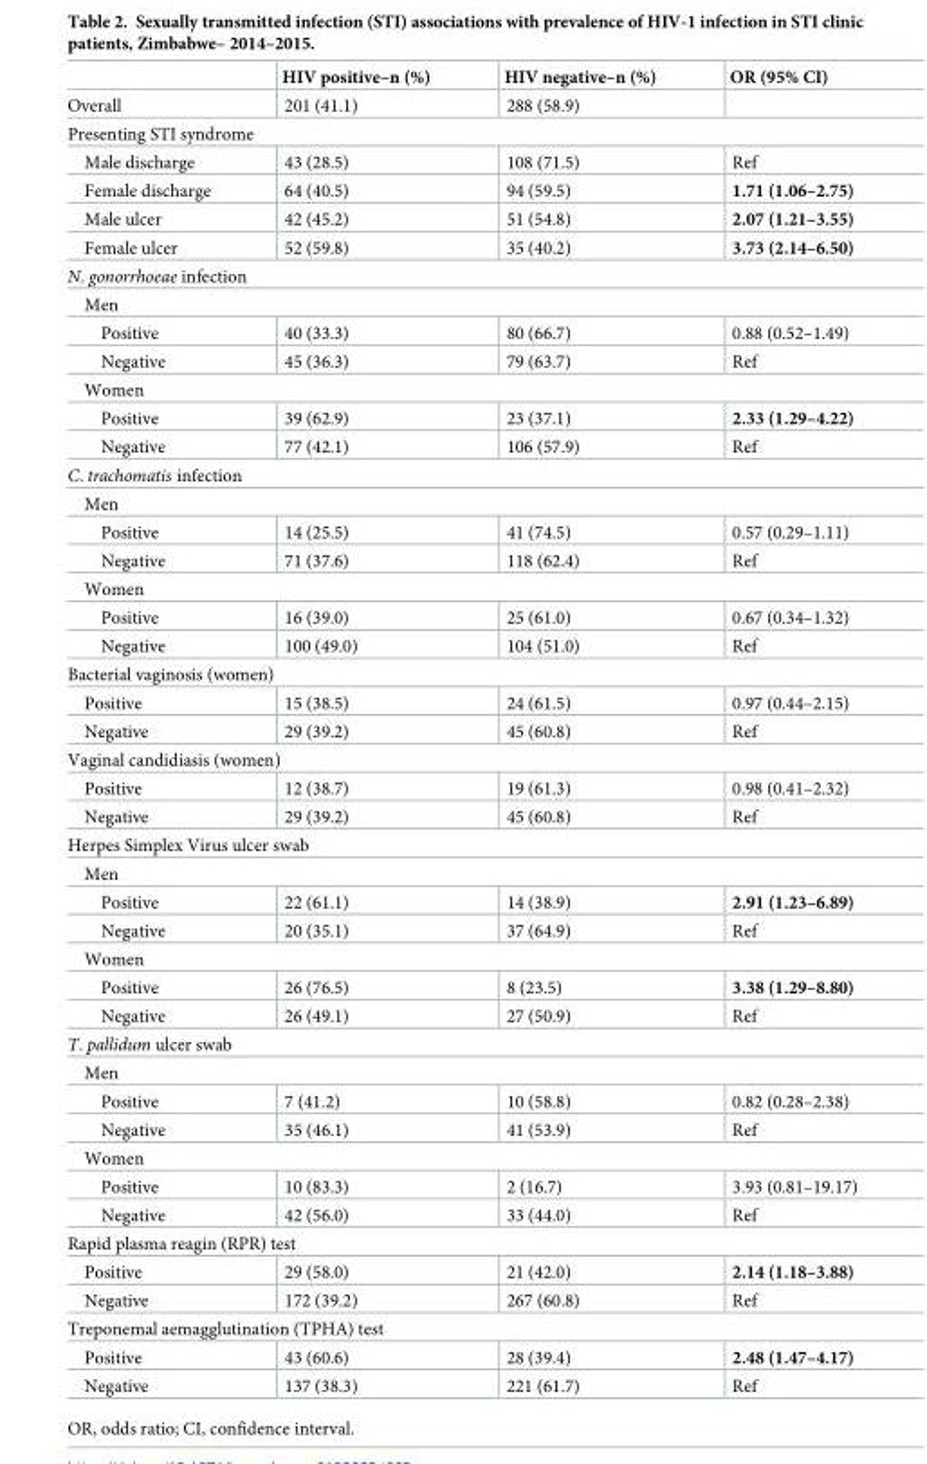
<table><thead><tr><td></td><td>HIV positive–n (%)</td><td>HIV negative–n (%)</td><td>OR (95% CI)</td></tr></thead><tbody><tr><td>Overall</td><td>201 (41.1)</td><td>288 (58.9)</td><td></td></tr><tr><td colspan="4">Presenting STI syndrome</td></tr><tr><td>Male discharge</td><td>43 (28.5)</td><td>108 (71.5)</td><td>Ref</td></tr><tr><td>Female discharge</td><td>64 (40.5)</td><td>94 (59.5)</td><td>1.71 (1.06–2.75)</td></tr><tr><td>Male ulcer</td><td>42 (45.2)</td><td>51 (54.8)</td><td>2.07 (1.21–3.55)</td></tr><tr><td>Female ulcer</td><td>52 (59.8)</td><td>35 (40.2)</td><td>3.73 (2.14–6.50)</td></tr><tr><td colspan="4">N. gonorrhoeae infection</td></tr><tr><td colspan="4">Men</td></tr><tr><td>Positive</td><td>40 (33.3)</td><td>80 (66.7)</td><td>0.88 (0.52–1.49)</td></tr><tr><td>Negative</td><td>45 (36.3)</td><td>79 (63.7)</td><td>Ref</td></tr><tr><td colspan="4">Women</td></tr><tr><td>Positive</td><td>39 (62.9)</td><td>23 (37.1)</td><td>2.33 (1.29–4.22)</td></tr><tr><td>Negative</td><td>77 (42.1)</td><td>106 (57.9)</td><td>Ref</td></tr><tr><td colspan="4">C. trachomatis infection</td></tr><tr><td colspan="4">Men</td></tr><tr><td>Positive</td><td>14 (25.5)</td><td>41 (74.5)</td><td>0.57 (0.29–1.11)</td></tr><tr><td>Negative</td><td>71 (37.6)</td><td>118 (62.4)</td><td>Ref</td></tr><tr><td colspan="4">Women</td></tr><tr><td>Positive</td><td>16 (39.0)</td><td>25 (61.0)</td><td>0.67 (0.34–1.32)</td></tr><tr><td>Negative</td><td>100 (49.0)</td><td>104 (51.0)</td><td>Ref</td></tr><tr><td colspan="4">Bacterial vaginosis (women)</td></tr><tr><td>Positive</td><td>15 (38.5)</td><td>24 (61.5)</td><td>0.97 (0.44–2.15)</td></tr><tr><td>Negative</td><td>29 (39.2)</td><td>45 (60.8)</td><td>Ref</td></tr><tr><td colspan="4">Vaginal candidiasis (women)</td></tr><tr><td>Positive</td><td>12 (38.7)</td><td>19 (61.3)</td><td>0.98 (0.41–2.32)</td></tr><tr><td>Negative</td><td>29 (39.2)</td><td>45 (60.8)</td><td>Ref</td></tr><tr><td colspan="4">Herpes Simplex Virus ulcer swab</td></tr><tr><td colspan="4">Men</td></tr><tr><td>Positive</td><td>22 (61.1)</td><td>14 (38.9)</td><td>2.91 (1.23–6.89)</td></tr><tr><td>Negative</td><td>20 (35.1)</td><td>37 (64.9)</td><td>Ref</td></tr><tr><td colspan="4">Women</td></tr><tr><td>Positive</td><td>26 (76.5)</td><td>8 (23.5)</td><td>3.38 (1.29–8.80)</td></tr><tr><td>Negative</td><td>26 (49.1)</td><td>27 (50.9)</td><td>Ref</td></tr><tr><td colspan="4">T. pallidum ulcer swab</td></tr><tr><td colspan="4">Men</td></tr><tr><td>Positive</td><td>7 (41.2)</td><td>10 (58.8)</td><td>0.82 (0.28–2.38)</td></tr><tr><td>Negative</td><td>35 (46.1)</td><td>41 (53.9)</td><td>Ref</td></tr><tr><td colspan="4">Women</td></tr><tr><td>Positive</td><td>10 (83.3)</td><td>2 (16.7)</td><td>3.93 (0.81–19.17)</td></tr><tr><td>Negative</td><td>42 (56.0)</td><td>33 (44.0)</td><td>Ref</td></tr><tr><td colspan="4">Rapid plasma reagin (RPR) test</td></tr><tr><td>Positive</td><td>29 (58.0)</td><td>21 (42.0)</td><td>2.14 (1.18–3.88)</td></tr><tr><td>Negative</td><td>172 (39.2)</td><td>267 (60.8)</td><td>Ref</td></tr><tr><td colspan="4">Treponemal aemagglutination (TPHA) test</td></tr><tr><td>Positive</td><td>43 (60.6)</td><td>28 (39.4)</td><td>2.48 (1.47–4.17)</td></tr><tr><td>Negative</td><td>137 (38.3)</td><td>221 (61.7)</td><td>Ref</td></tr></tbody></table>